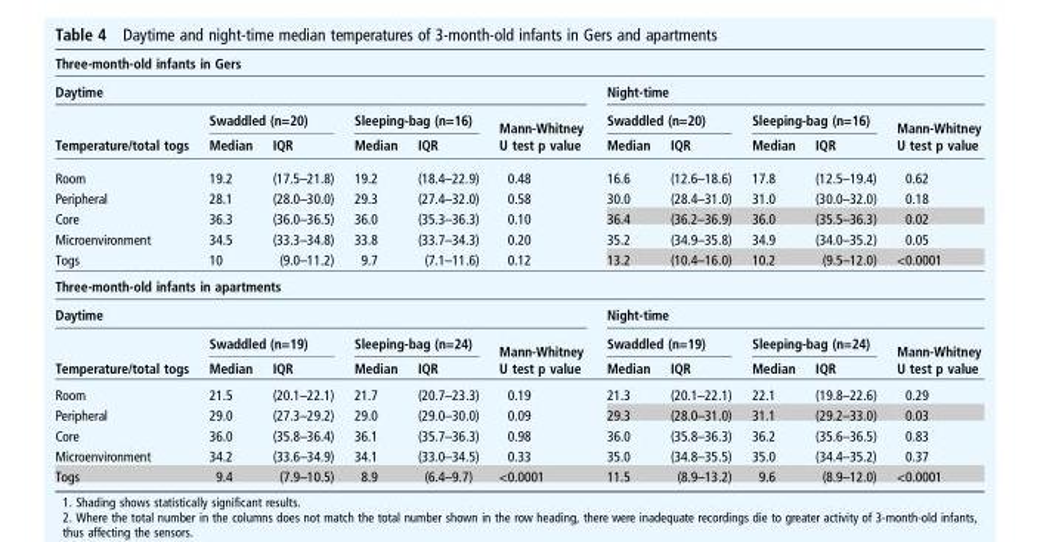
<table><thead><tr><td colspan="11">Three-month-old infants in Gers</td></tr><tr><td colspan="6">Daytime</td><td colspan="5">Night-time</td></tr><tr><td rowspan="2">Temperature/total togs</td><td colspan="2">Swaddled (n=20)</td><td colspan="2">Sleeping-bag (n=16)</td><td rowspan="2">Mann-Whitney U test p value</td><td colspan="2">Swaddled (n=20)</td><td colspan="2">Sleeping-bag (n=16)</td><td rowspan="2">Mann-Whitney U test p value</td></tr><tr><td>Median</td><td>IQR</td><td>Median</td><td>IQR</td><td>Median</td><td>IQR</td><td>Median</td><td>IQR</td></tr></thead><tbody><tr><td>Room</td><td>19.2</td><td>(17.5–21.8)</td><td>19.2</td><td>(18.4–22.9)</td><td>0.48</td><td>16.6</td><td>(12.6–18.6)</td><td>17.8</td><td>(12.5–19.4)</td><td>0.62</td></tr><tr><td>Peripheral</td><td>28.1</td><td>(28.0–30.0)</td><td>29.3</td><td>(27.4–32.0)</td><td>0.58</td><td>30.0</td><td>(28.4–31.0)</td><td>31.0</td><td>(30.0–32.0)</td><td>0.18</td></tr><tr><td>Core</td><td>36.3</td><td>(36.0–36.5)</td><td>36.0</td><td>(35.3–36.3)</td><td>0.10</td><td>36.4</td><td>(36.2–36.9)</td><td>36.0</td><td>(35.5–36.3)</td><td>0.02</td></tr><tr><td>Microenvironment</td><td>34.5</td><td>(33.3–34.8)</td><td>33.8</td><td>(33.7–34.3)</td><td>0.20</td><td>35.2</td><td>(34.9–35.8)</td><td>34.9</td><td>(34.0–35.2)</td><td>0.05</td></tr><tr><td>Togs</td><td>10</td><td>(9.0–11.2)</td><td>9.7</td><td>(7.1–11.6)</td><td>0.12</td><td>13.2</td><td>(10.4–16.0)</td><td>10.2</td><td>(9.5–12.0)</td><td>&lt;0.0001</td></tr><tr><td colspan="11">Three-month-old infants in apartments</td></tr><tr><td colspan="6">Daytime</td><td colspan="5">Night-time</td></tr><tr><td rowspan="2">Temperature/total togs</td><td colspan="2">Swaddled (n=19)</td><td colspan="2">Sleeping-bag (n=24)</td><td rowspan="2">Mann-Whitney U test p value</td><td colspan="2">Swaddled (n=19)</td><td colspan="2">Sleeping-bag (n=24)</td><td rowspan="2">Mann-Whitney U test p value</td></tr><tr><td>Median</td><td>IQR</td><td>Median</td><td>IQR</td><td>Median</td><td>IQR</td><td>Median</td><td>IQR</td></tr><tr><td>Room</td><td>21.5</td><td>(20.1–22.1)</td><td>21.7</td><td>(20.7–23.3)</td><td>0.19</td><td>21.3</td><td>(20.1–22.1)</td><td>22.1</td><td>(19.8–22.6)</td><td>0.29</td></tr><tr><td>Peripheral</td><td>29.0</td><td>(27.3–29.2)</td><td>29.0</td><td>(29.0–30.0)</td><td>0.09</td><td>29.3</td><td>(28.0–31.0)</td><td>31.1</td><td>(29.2–33.0)</td><td>0.03</td></tr><tr><td>Core</td><td>36.0</td><td>(35.8–36.4)</td><td>36.1</td><td>(35.7–36.3)</td><td>0.98</td><td>36.0</td><td>(35.8–36.3)</td><td>36.2</td><td>(35.6–36.5)</td><td>0.83</td></tr><tr><td>Microenvironment</td><td>34.2</td><td>(33.6–34.9)</td><td>34.1</td><td>(33.0–34.5)</td><td>0.33</td><td>35.0</td><td>(34.8–35.5)</td><td>35.0</td><td>(34.4–35.2)</td><td>0.37</td></tr><tr><td>Togs</td><td>9.4</td><td>(7.9–10.5)</td><td>8.9</td><td>(6.4–9.7)</td><td>&lt;0.0001</td><td>11.5</td><td>(8.9–13.2)</td><td>9.6</td><td>(8.9–12.0)</td><td>&lt;0.0001</td></tr></tbody></table>